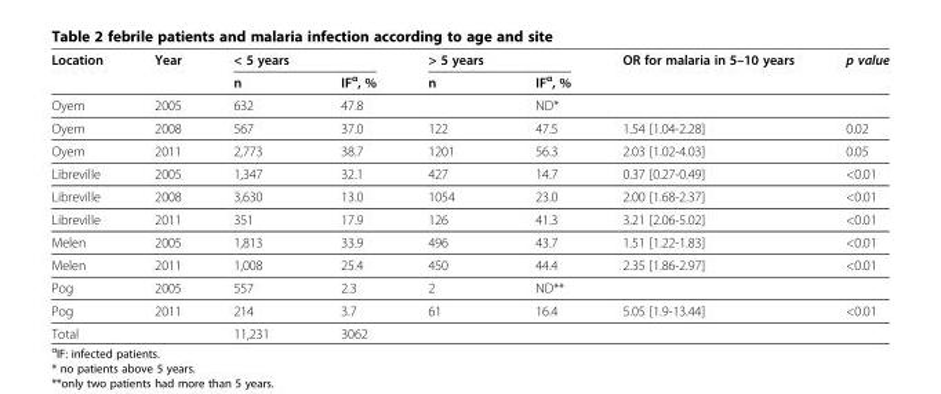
<table><thead><tr><td rowspan="2">Location</td><td rowspan="2">Year</td><td rowspan="2">&lt; 5 years n</td><td rowspan="2">IF<sup>α</sup>, %</td><td rowspan="2">&gt; 5 years n</td><td rowspan="2">IF<sup>α</sup>, %</td><td rowspan="2">OR for malaria in 5–10 years</td><td rowspan="2">p value</td></tr><tr></tr></thead><tbody><tr><td>Oyem</td><td>2005</td><td>632</td><td>47.8</td><td></td><td>ND*</td><td></td><td></td></tr><tr><td>Oyem</td><td>2008</td><td>567</td><td>37.0</td><td>122</td><td>47.5</td><td>1.54 [1.04-2.28]</td><td>0.02</td></tr><tr><td>Oyem</td><td>2011</td><td>2,773</td><td>38.7</td><td>1201</td><td>56.3</td><td>2.03 [1.02-4.03]</td><td>0.05</td></tr><tr><td>Libreville</td><td>2005</td><td>1,347</td><td>32.1</td><td>427</td><td>14.7</td><td>0.37 [0.27-0.49]</td><td>&lt;0.01</td></tr><tr><td>Libreville</td><td>2008</td><td>3,630</td><td>13.0</td><td>1054</td><td>23.0</td><td>2.00 [1.68-2.37]</td><td>&lt;0.01</td></tr><tr><td>Libreville</td><td>2011</td><td>351</td><td>17.9</td><td>126</td><td>41.3</td><td>3.21 [2.06-5.02]</td><td>&lt;0.01</td></tr><tr><td>Melen</td><td>2005</td><td>1,813</td><td>33.9</td><td>496</td><td>43.7</td><td>1.51 [1.22-1.83]</td><td>&lt;0.01</td></tr><tr><td>Melen</td><td>2011</td><td>1,008</td><td>25.4</td><td>450</td><td>44.4</td><td>2.35 [1.86-2.97]</td><td>&lt;0.01</td></tr><tr><td>Pog</td><td>2005</td><td>557</td><td>2.3</td><td>2</td><td>ND**</td><td></td><td></td></tr><tr><td>Pog</td><td>2011</td><td>214</td><td>3.7</td><td>61</td><td>16.4</td><td>5.05 [1.9-13.44]</td><td>&lt;0.01</td></tr><tr><td>Total</td><td></td><td>11,231</td><td>3062</td><td></td><td></td><td></td><td></td></tr></tbody></table>